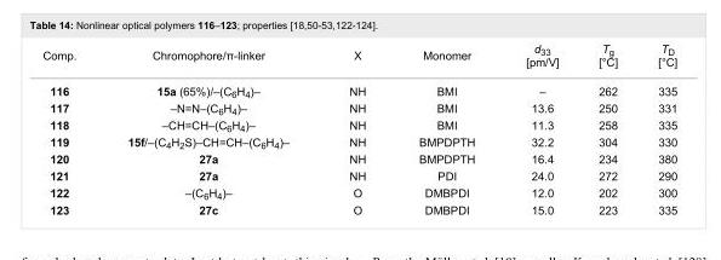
<table><tbody><tr><td>Comp.</td><td>Chromophore/π-linker</td><td>X</td><td>Monomer</td><td>d<sub>33</sub> [pm/V]</td><td>T<sub>g</sub> [°C]</td><td>T<sub>D</sub> [°C]</td></tr><tr><td>116</td><td>15a (65%)/–(C<sub>6</sub>H<sub>4</sub>)–</td><td>NH</td><td>BMI</td><td>–</td><td>262</td><td>335</td></tr><tr><td>117</td><td>–N=N–(C<sub>6</sub>H<sub>4</sub>)–</td><td>NH</td><td>BMI</td><td>13.6</td><td>250</td><td>331</td></tr><tr><td>118</td><td>–CH=CH–(C<sub>6</sub>H<sub>4</sub>)–</td><td>NH</td><td>BMI</td><td>11.3</td><td>258</td><td>335</td></tr><tr><td>119</td><td>15f/–(C<sub>4</sub>H<sub>2</sub>S)–CH=CH–(C<sub>6</sub>H<sub>4</sub>)–</td><td>NH</td><td>BMPDPTH</td><td>32.2</td><td>304</td><td>330</td></tr><tr><td>120</td><td>27a</td><td>NH</td><td>BMPDPTH</td><td>16.4</td><td>234</td><td>380</td></tr><tr><td>121</td><td>27a</td><td>NH</td><td>PDI</td><td>24.0</td><td>272</td><td>290</td></tr><tr><td>122</td><td>–(C<sub>6</sub>H<sub>4</sub>)–</td><td>O</td><td>DMBPDI</td><td>12.0</td><td>202</td><td>300</td></tr><tr><td>123</td><td>27c</td><td>O</td><td>DMBPDI</td><td>15.0</td><td>223</td><td>335</td></tr></tbody></table>